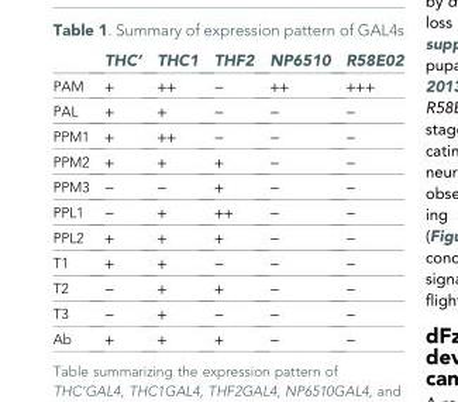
<table><thead><tr><td></td><td>THC’</td><td>THC1</td><td>THF2</td><td>NP6510</td><td>R58E02</td></tr></thead><tbody><tr><td>PAM</td><td>+</td><td>++</td><td>−</td><td>++</td><td>+++</td></tr><tr><td>PAL</td><td>+</td><td>+</td><td>−</td><td>−</td><td>−</td></tr><tr><td>PPM1</td><td>+</td><td>++</td><td>−</td><td>−</td><td>−</td></tr><tr><td>PPM2</td><td>+</td><td>+</td><td>+</td><td>−</td><td>−</td></tr><tr><td>PPM3</td><td>−</td><td>−</td><td>+</td><td>−</td><td>−</td></tr><tr><td>PPL1</td><td>−</td><td>+</td><td>++</td><td>−</td><td>−</td></tr><tr><td>PPL2</td><td>+</td><td>+</td><td>+</td><td>−</td><td>−</td></tr><tr><td>T1</td><td>+</td><td>+</td><td>−</td><td>−</td><td>−</td></tr><tr><td>T2</td><td>−</td><td>+</td><td>+</td><td>−</td><td>−</td></tr><tr><td>T3</td><td>−</td><td>+</td><td>−</td><td>−</td><td>−</td></tr><tr><td>Ab</td><td>+</td><td>+</td><td>+</td><td>−</td><td>−</td></tr></tbody></table>